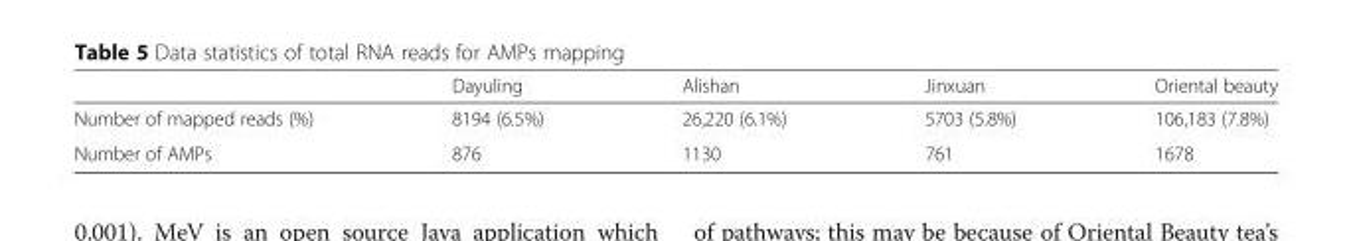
<table><thead><tr><td></td><td>Dayuling</td><td>Alishan</td><td>Jinxuan</td><td>Oriental beauty</td></tr></thead><tbody><tr><td>Number of mapped reads (%)</td><td>8194 (6.5%)</td><td>26,220 (6.1%)</td><td>5703 (5.8%)</td><td>106,183 (7.8%)</td></tr><tr><td>Number of AMPs</td><td>876</td><td>1130</td><td>761</td><td>1678</td></tr></tbody></table>